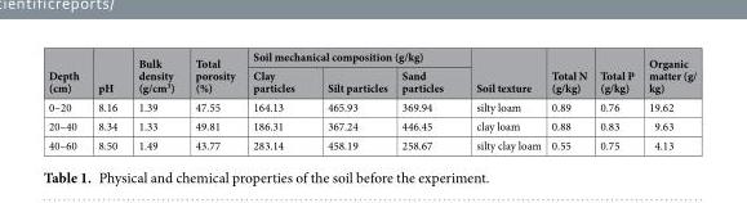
<table><thead><tr><td rowspan="2">Depth (cm)</td><td rowspan="2">pH</td><td rowspan="2">Bulk density (g/cm<sup>3</sup>)</td><td rowspan="2">Total porosity (%)</td><td colspan="3">Soil mechanical composition (g/kg)</td><td rowspan="2">Soil texture</td><td rowspan="2">Total N (g/kg)</td><td rowspan="2">Total P (g/kg)</td><td rowspan="2">Organic matter (g/ kg)</td></tr><tr><td>Clay particles</td><td>Silt particles</td><td>Sand particles</td></tr></thead><tbody><tr><td>0–20</td><td>8.16</td><td>1.39</td><td>47.55</td><td>164.13</td><td>465.93</td><td>369.94</td><td>silty loam</td><td>0.89</td><td>0.76</td><td>19.62</td></tr><tr><td>20–40</td><td>8.34</td><td>1.33</td><td>49.81</td><td>186.31</td><td>367.24</td><td>446.45</td><td>clay loam</td><td>0.88</td><td>0.83</td><td>9.63</td></tr><tr><td>40–60</td><td>8.50</td><td>1.49</td><td>43.77</td><td>283.14</td><td>458.19</td><td>258.67</td><td>silty clay loam</td><td>0.55</td><td>0.75</td><td>4.13</td></tr></tbody></table>